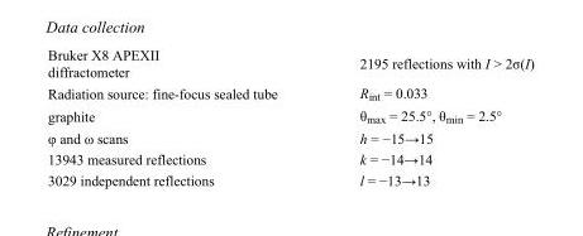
<table><tbody><tr><td>Bruker X8 APEXII diffractometer</td><td>2195 reflections with I &gt; 2σ(I)</td></tr><tr><td>Radiation source: fine-focus sealed tube</td><td>R<sub>int</sub> = 0.033</td></tr><tr><td>graphite</td><td>θ<sub>max</sub> = 25.5°, θ<sub>min</sub> = 2.5°</td></tr><tr><td>φ and ω scans</td><td>h = −15→15</td></tr><tr><td>13943 measured reflections</td><td>k = −14→14</td></tr><tr><td>3029 independent reflections</td><td>l = −13→13</td></tr></tbody></table>